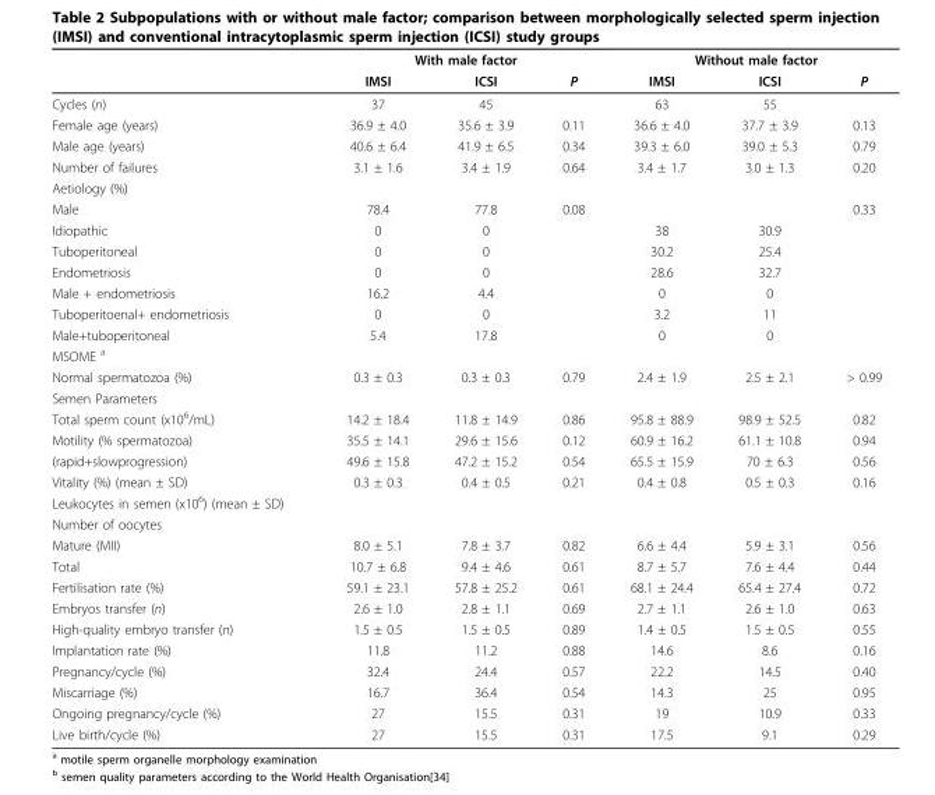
<table><thead><tr><td rowspan="2"></td><td colspan="3">With male factor</td><td colspan="3">Without male factor</td></tr><tr><td>IMSI</td><td>ICSI</td><td>P</td><td>IMSI</td><td>ICSI</td><td>P</td></tr></thead><tbody><tr><td>Cycles (n)</td><td>37</td><td>45</td><td></td><td>63</td><td>55</td><td></td></tr><tr><td>Female age (years)</td><td>36.9 ± 4.0</td><td>35.6 ± 3.9</td><td>0.11</td><td>36.6 ± 4.0</td><td>37.7 ± 3.9</td><td>0.13</td></tr><tr><td>Male age (years)</td><td>40.6 ± 6.4</td><td>41.9 ± 6.5</td><td>0.34</td><td>39.3 ± 6.0</td><td>39.0 ± 5.3</td><td>0.79</td></tr><tr><td>Number of failures</td><td>3.1 ± 1.6</td><td>3.4 ± 1.9</td><td>0.64</td><td>3.4 ± 1.7</td><td>3.0 ± 1.3</td><td>0.20</td></tr><tr><td colspan="7">Aetiology (%)</td></tr><tr><td>Male</td><td>78.4</td><td>77.8</td><td>0.08</td><td></td><td></td><td>0.33</td></tr><tr><td>Idiopathic</td><td>0</td><td>0</td><td></td><td>38</td><td>30.9</td><td></td></tr><tr><td>Tuboperitoneal</td><td>0</td><td>0</td><td></td><td>30.2</td><td>25.4</td><td></td></tr><tr><td>Endometriosis</td><td>0</td><td>0</td><td></td><td>28.6</td><td>32.7</td><td></td></tr><tr><td>Male + endometriosis</td><td>16.2</td><td>4.4</td><td></td><td>0</td><td>0</td><td></td></tr><tr><td>Tuboperitoenal+ endometriosis</td><td>0</td><td>0</td><td></td><td>3.2</td><td>11</td><td></td></tr><tr><td>Male+tuboperitoneal</td><td>5.4</td><td>17.8</td><td></td><td>0</td><td>0</td><td></td></tr><tr><td colspan="7">MSOME <sup>a</sup></td></tr><tr><td>Normal spermatozoa (%)</td><td>0.3 ± 0.3</td><td>0.3 ± 0.3</td><td>0.79</td><td>2.4 ± 1.9</td><td>2.5 ± 2.1</td><td>&gt; 0.99</td></tr><tr><td colspan="7">Semen Parameters</td></tr><tr><td>Total sperm count (x10<sup>6</sup>/mL)</td><td>14.2 ± 18.4</td><td>11.8 ± 14.9</td><td>0.86</td><td>95.8 ± 88.9</td><td>98.9 ± 52.5</td><td>0.82</td></tr><tr><td>Motility (% spermatozoa)</td><td>35.5 ± 14.1</td><td>29.6 ± 15.6</td><td>0.12</td><td>60.9 ± 16.2</td><td>61.1 ± 10.8</td><td>0.94</td></tr><tr><td>(rapid+slowprogression)</td><td>49.6 ± 15.8</td><td>47.2 ± 15.2</td><td>0.54</td><td>65.5 ± 15.9</td><td>70 ± 6.3</td><td>0.56</td></tr><tr><td>Vitality (%) (mean ± SD)</td><td>0.3 ± 0.3</td><td>0.4 ± 0.5</td><td>0.21</td><td>0.4 ± 0.8</td><td>0.5 ± 0.3</td><td>0.16</td></tr><tr><td colspan="7">Leukocytes in semen (x10<sup>6</sup>) (mean ± SD)</td></tr><tr><td colspan="7">Number of oocytes</td></tr><tr><td>Mature (MII)</td><td>8.0 ± 5.1</td><td>7.8 ± 3.7</td><td>0.82</td><td>6.6 ± 4.4</td><td>5.9 ± 3.1</td><td>0.56</td></tr><tr><td>Total</td><td>10.7 ± 6.8</td><td>9.4 ± 4.6</td><td>0.61</td><td>8.7 ± 5.7</td><td>7.6 ± 4.4</td><td>0.44</td></tr><tr><td>Fertilisation rate (%)</td><td>59.1 ± 23.1</td><td>57.8 ± 25.2</td><td>0.61</td><td>68.1 ± 24.4</td><td>65.4 ± 27.4</td><td>0.72</td></tr><tr><td>Embryos transfer (n)</td><td>2.6 ± 1.0</td><td>2.8 ± 1.1</td><td>0.69</td><td>2.7 ± 1.1</td><td>2.6 ± 1.0</td><td>0.63</td></tr><tr><td>High-quality embryo transfer (n)</td><td>1.5 ± 0.5</td><td>1.5 ± 0.5</td><td>0.89</td><td>1.4 ± 0.5</td><td>1.5 ± 0.5</td><td>0.55</td></tr><tr><td>Implantation rate (%)</td><td>11.8</td><td>11.2</td><td>0.88</td><td>14.6</td><td>8.6</td><td>0.16</td></tr><tr><td>Pregnancy/cycle (%)</td><td>32.4</td><td>24.4</td><td>0.57</td><td>22.2</td><td>14.5</td><td>0.40</td></tr><tr><td>Miscarriage (%)</td><td>16.7</td><td>36.4</td><td>0.54</td><td>14.3</td><td>25</td><td>0.95</td></tr><tr><td>Ongoing pregnancy/cycle (%)</td><td>27</td><td>15.5</td><td>0.31</td><td>19</td><td>10.9</td><td>0.33</td></tr><tr><td>Live birth/cycle (%)</td><td>27</td><td>15.5</td><td>0.31</td><td>17.5</td><td>9.1</td><td>0.29</td></tr></tbody></table>